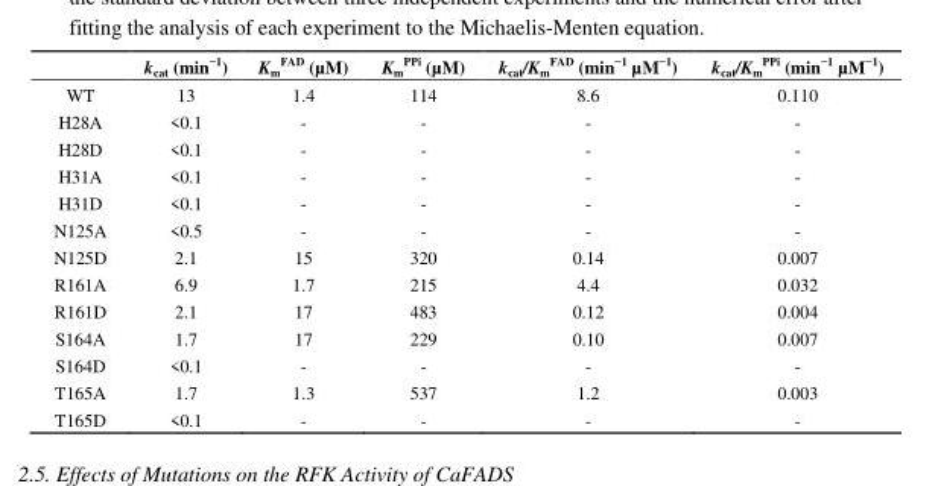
<table><thead><tr><td></td><td>k<sub>cat</sub> (min<sup>−1</sup>)</td><td>K<sub>m</sub> <sup>FAD</sup> (µM)</td><td>K<sub>m</sub> <sup>PPi</sup> (µM)</td><td>k<sub>cat</sub>/K<sub>m</sub> <sup>FAD</sup> (min<sup>−1</sup> µM<sup>−1</sup>)</td><td>k<sub>cat</sub>/K<sub>m</sub> <sup>PPi</sup> (min<sup>−1</sup> µM<sup>−1</sup>)</td></tr></thead><tbody><tr><td>WT</td><td>13</td><td>1.4</td><td>114</td><td>8.6</td><td>0.110</td></tr><tr><td>H28A</td><td>&lt;0.1</td><td>-</td><td>-</td><td>-</td><td>-</td></tr><tr><td>H28D</td><td>&lt;0.1</td><td>-</td><td>-</td><td>-</td><td>-</td></tr><tr><td>H31A</td><td>&lt;0.1</td><td>-</td><td>-</td><td>-</td><td>-</td></tr><tr><td>H31D</td><td>&lt;0.1</td><td>-</td><td>-</td><td>-</td><td>-</td></tr><tr><td>N125A</td><td>&lt;0.5</td><td>-</td><td>-</td><td>-</td><td>-</td></tr><tr><td>N125D</td><td>2.1</td><td>15</td><td>320</td><td>0.14</td><td>0.007</td></tr><tr><td>R161A</td><td>6.9</td><td>1.7</td><td>215</td><td>4.4</td><td>0.032</td></tr><tr><td>R161D</td><td>2.1</td><td>17</td><td>483</td><td>0.12</td><td>0.004</td></tr><tr><td>S164A</td><td>1.7</td><td>17</td><td>229</td><td>0.10</td><td>0.007</td></tr><tr><td>S164D</td><td>&lt;0.1</td><td>-</td><td>-</td><td>-</td><td>-</td></tr><tr><td>T165A</td><td>1.7</td><td>1.3</td><td>537</td><td>1.2</td><td>0.003</td></tr><tr><td>T165D</td><td>&lt;0.1</td><td>-</td><td>-</td><td>-</td><td>-</td></tr></tbody></table>